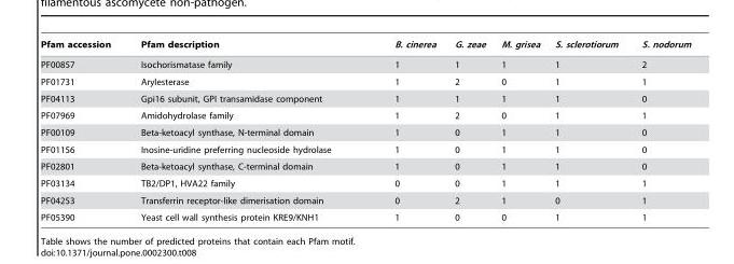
<table><thead><tr><td>Pfam accession</td><td>Pfam description</td><td>B. cinerea</td><td>G. zeae</td><td>M. grisea</td><td>S. sclerotiorum</td><td>S. nodorum</td></tr></thead><tbody><tr><td>PF00857</td><td>Isochorismatase family</td><td>1</td><td>1</td><td>1</td><td>1</td><td>2</td></tr><tr><td>PF01731</td><td>Arylesterase</td><td>1</td><td>2</td><td>0</td><td>1</td><td>1</td></tr><tr><td>PF04113</td><td>Gpi16 subunit, GPI transamidase component</td><td>1</td><td>1</td><td>1</td><td>1</td><td>0</td></tr><tr><td>PF07969</td><td>Amidohydrolase family</td><td>1</td><td>2</td><td>0</td><td>1</td><td>1</td></tr><tr><td>PF00109</td><td>Beta-ketoacyl synthase, N-terminal domain</td><td>1</td><td>0</td><td>1</td><td>1</td><td>0</td></tr><tr><td>PF01156</td><td>Inosine-uridine preferring nucleoside hydrolase</td><td>1</td><td>0</td><td>1</td><td>1</td><td>0</td></tr><tr><td>PF02801</td><td>Beta-ketoacyl synthase, C-terminal domain</td><td>1</td><td>0</td><td>1</td><td>1</td><td>0</td></tr><tr><td>PF03134</td><td>TB2/DP1, HVA22 family</td><td>0</td><td>0</td><td>1</td><td>1</td><td>1</td></tr><tr><td>PF04253</td><td>Transferrin receptor-like dimerisation domain</td><td>0</td><td>2</td><td>1</td><td>0</td><td>1</td></tr><tr><td>PF05390</td><td>Yeast cell wall synthesis protein KRE9/KNH1</td><td>1</td><td>0</td><td>0</td><td>1</td><td>1</td></tr></tbody></table>